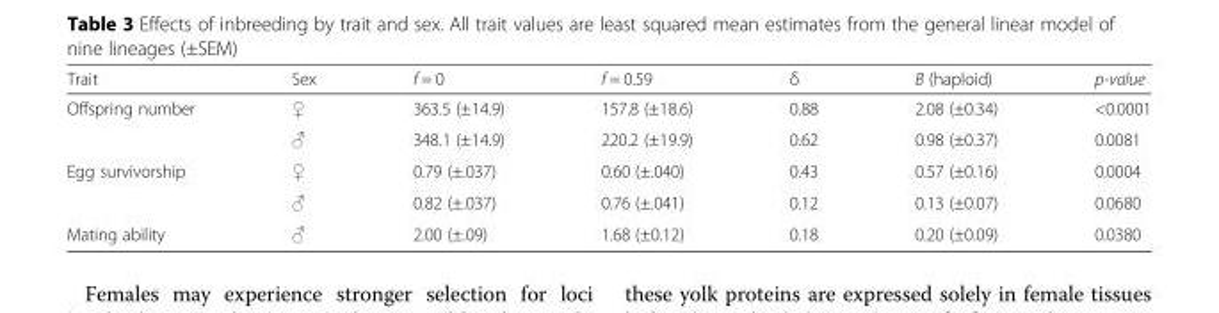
<table><thead><tr><td>Trait</td><td>Sex</td><td>f = 0</td><td>f = 0.59</td><td>δ</td><td>B (haploid)</td><td>p-value</td></tr></thead><tbody><tr><td rowspan="2">Offspring number</td><td>♀</td><td>363.5 (±14.9)</td><td>157.8 (±18.6)</td><td>0.88</td><td>2.08 (±0.34)</td><td>&lt;0.0001</td></tr><tr><td>♂</td><td>348.1 (±14.9)</td><td>220.2 (±19.9)</td><td>0.62</td><td>0.98 (±0.37)</td><td>0.0081</td></tr><tr><td rowspan="2">Egg survivorship</td><td>♀</td><td>0.79 (±.037)</td><td>0.60 (±.040)</td><td>0.43</td><td>0.57 (±0.16)</td><td>0.0004</td></tr><tr><td>♂</td><td>0.82 (±.037)</td><td>0.76 (±.041)</td><td>0.12</td><td>0.13 (±0.07)</td><td>0.0680</td></tr><tr><td>Mating ability</td><td>♂</td><td>2.00 (±.09)</td><td>1.68 (±0.12)</td><td>0.18</td><td>0.20 (±0.09)</td><td>0.0380</td></tr></tbody></table>